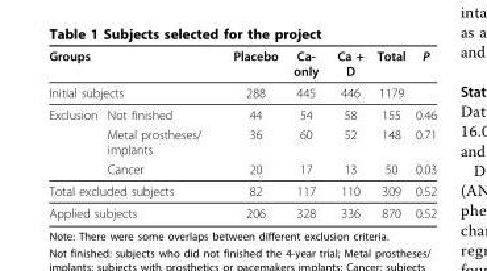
<table><thead><tr><td rowspan="2" colspan="2">Groups Initial subjects</td><td rowspan="3">Placebo 288 44</td><td rowspan="3">Ca- only 445 54</td><td rowspan="3">Ca + D 446 58</td><td rowspan="3">Total 1179 155</td><td rowspan="3">P 0.46</td></tr><tr></tr><tr><td>Exclusion</td><td>Not finished</td></tr></thead><tbody><tr><td></td><td>Metal prostheses/ implants</td><td>36</td><td>60</td><td>52</td><td>148</td><td>0.71</td></tr><tr><td></td><td>Cancer</td><td>20</td><td>17</td><td>13</td><td>50</td><td>0.03</td></tr><tr><td colspan="2">Total excluded subjects</td><td>82</td><td>117</td><td>110</td><td>309</td><td>0.52</td></tr><tr><td colspan="2">Applied subjects</td><td>206</td><td>328</td><td>336</td><td>870</td><td>0.52</td></tr></tbody></table>